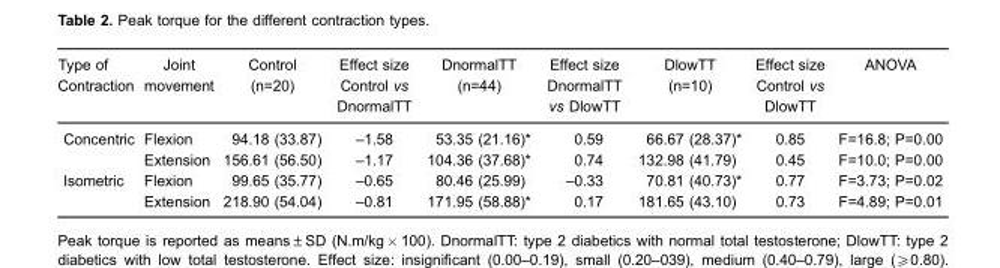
<table><thead><tr><td>Type of Contraction</td><td>Joint movement</td><td>Control (n=20)</td><td>Effect size Control vs DnormalTT</td><td>DnormalTT (n=44)</td><td>Effect size DnormalTT vs DlowTT</td><td>DlowTT (n=10)</td><td>Effect size Control vs DlowTT</td><td>ANOVA</td></tr></thead><tbody><tr><td rowspan="2">Concentric</td><td>Flexion</td><td>94.18 (33.87)</td><td>–1.58</td><td>53.35 (21.16)*</td><td>0.59</td><td>66.67 (28.37)*</td><td>0.85</td><td>F=16.8; P=0.00</td></tr><tr><td>Extension</td><td>156.61 (56.50)</td><td>–1.17</td><td>104.36 (37.68)*</td><td>0.74</td><td>132.98 (41.79)</td><td>0.45</td><td>F=10.0; P=0.00</td></tr><tr><td rowspan="2">Isometric</td><td>Flexion</td><td>99.65 (35.77)</td><td>–0.65</td><td>80.46 (25.99)</td><td>–0.33</td><td>70.81 (40.73)*</td><td>0.77</td><td>F=3.73; P=0.02</td></tr><tr><td>Extension</td><td>218.90 (54.04)</td><td>–0.81</td><td>171.95 (58.88)*</td><td>0.17</td><td>181.65 (43.10)</td><td>0.73</td><td>F=4.89; P=0.01</td></tr></tbody></table>